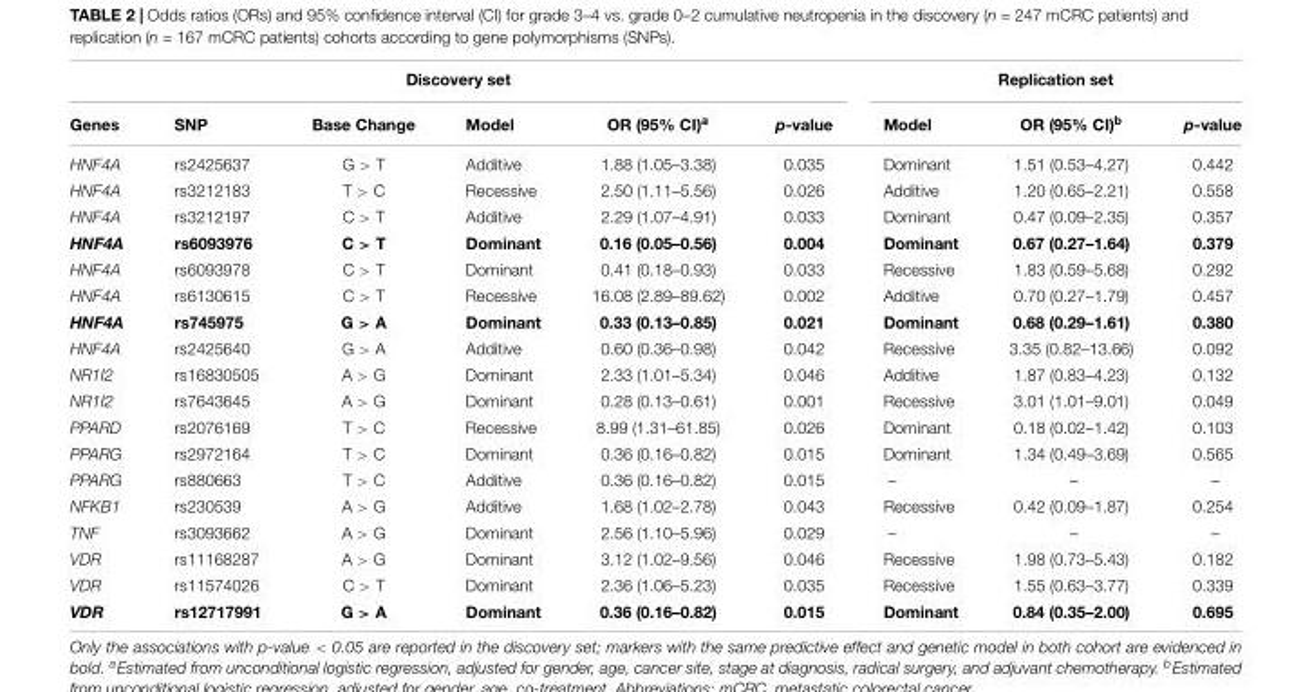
<table><thead><tr><td colspan="6">Discovery set</td><td colspan="3">Replication set</td></tr><tr><td>Genes</td><td>SNP</td><td>Base Change</td><td>Model</td><td>OR (95% CI)<sup>a</sup></td><td>p-value</td><td>Model</td><td>OR (95% CI)<sup>b</sup></td><td>p-value</td></tr></thead><tbody><tr><td>HNF4A</td><td>rs2425637</td><td>G &gt; T</td><td>Additive</td><td>1.88 (1.05–3.38)</td><td>0.035</td><td>Dominant</td><td>1.51 (0.53–4.27)</td><td>0.442</td></tr><tr><td>HNF4A</td><td>rs3212183</td><td>T &gt; C</td><td>Recessive</td><td>2.50 (1.11–5.56)</td><td>0.026</td><td>Additive</td><td>1.20 (0.65–2.21)</td><td>0.558</td></tr><tr><td>HNF4A</td><td>rs3212197</td><td>C &gt; T</td><td>Additive</td><td>2.29 (1.07–4.91)</td><td>0.033</td><td>Dominant</td><td>0.47 (0.09–2.35)</td><td>0.357</td></tr><tr><td>HNF4A</td><td>rs6093976</td><td>C &gt; T</td><td>Dominant</td><td>0.16 (0.05–0.56)</td><td>0.004</td><td>Dominant</td><td>0.67 (0.27–1.64)</td><td>0.379</td></tr><tr><td>HNF4A</td><td>rs6093978</td><td>C &gt; T</td><td>Dominant</td><td>0.41 (0.18–0.93)</td><td>0.033</td><td>Recessive</td><td>1.83 (0.59–5.68)</td><td>0.292</td></tr><tr><td>HNF4A</td><td>rs6130615</td><td>C &gt; T</td><td>Recessive</td><td>16.08 (2.89–89.62)</td><td>0.002</td><td>Additive</td><td>0.70 (0.27–1.79)</td><td>0.457</td></tr><tr><td>HNF4A</td><td>rs745975</td><td>G &gt; A</td><td>Dominant</td><td>0.33 (0.13–0.85)</td><td>0.021</td><td>Dominant</td><td>0.68 (0.29–1.61)</td><td>0.380</td></tr><tr><td>HNF4A</td><td>rs2425640</td><td>G &gt; A</td><td>Additive</td><td>0.60 (0.36–0.98)</td><td>0.042</td><td>Recessive</td><td>3.35 (0.82–13.66)</td><td>0.092</td></tr><tr><td>NR1I2</td><td>rs16830505</td><td>A &gt; G</td><td>Dominant</td><td>2.33 (1.01–5.34)</td><td>0.046</td><td>Additive</td><td>1.87 (0.83–4.23)</td><td>0.132</td></tr><tr><td>NR1I2</td><td>rs7643645</td><td>A &gt; G</td><td>Dominant</td><td>0.28 (0.13–0.61)</td><td>0.001</td><td>Recessive</td><td>3.01 (1.01–9.01)</td><td>0.049</td></tr><tr><td>PPARD</td><td>rs2076169</td><td>T &gt; C</td><td>Recessive</td><td>8.99 (1.31–61.85)</td><td>0.026</td><td>Dominant</td><td>0.18 (0.02–1.42)</td><td>0.103</td></tr><tr><td>PPARG</td><td>rs2972164</td><td>T &gt; C</td><td>Dominant</td><td>0.36 (0.16–0.82)</td><td>0.015</td><td>Dominant</td><td>1.34 (0.49–3.69)</td><td>0.565</td></tr><tr><td>PPARG</td><td>rs880663</td><td>T &gt; C</td><td>Additive</td><td>0.36 (0.16–0.82)</td><td>0.015</td><td>–</td><td>–</td><td>–</td></tr><tr><td>NFKB1</td><td>rs230539</td><td>A &gt; G</td><td>Additive</td><td>1.68 (1.02–2.78)</td><td>0.043</td><td>Recessive</td><td>0.42 (0.09–1.87)</td><td>0.254</td></tr><tr><td>TNF</td><td>rs3093662</td><td>A &gt; G</td><td>Dominant</td><td>2.56 (1.10–5.96)</td><td>0.029</td><td>–</td><td>–</td><td>–</td></tr><tr><td>VDR</td><td>rs11168287</td><td>A &gt; G</td><td>Dominant</td><td>3.12 (1.02–9.56)</td><td>0.046</td><td>Recessive</td><td>1.98 (0.73–5.43)</td><td>0.182</td></tr><tr><td>VDR</td><td>rs11574026</td><td>C &gt; T</td><td>Dominant</td><td>2.36 (1.06–5.23)</td><td>0.035</td><td>Recessive</td><td>1.55 (0.63–3.77)</td><td>0.339</td></tr><tr><td>VDR</td><td>rs12717991</td><td>G &gt; A</td><td>Dominant</td><td>0.36 (0.16–0.82)</td><td>0.015</td><td>Dominant</td><td>0.84 (0.35–2.00)</td><td>0.695</td></tr></tbody></table>